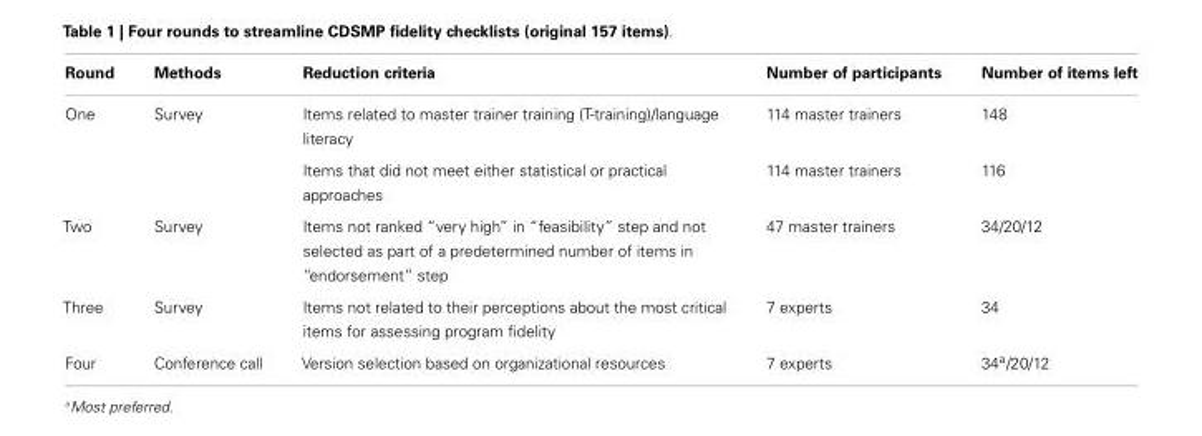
<table><thead><tr><td>Round</td><td>Methods</td><td>Reduction criteria</td><td>Number of participants</td><td>Number of items left</td></tr></thead><tbody><tr><td rowspan="2">One</td><td>Survey</td><td>Items related to master trainer training (T-training)/language literacy</td><td>114 master trainers</td><td>148</td></tr><tr><td></td><td>Items that did not meet either statistical or practical approaches</td><td>114 master trainers</td><td>116</td></tr><tr><td>Two</td><td>Survey</td><td>Items not ranked “very high” in “feasibility” step and not selected as part of a predetermined number of items in “endorsement” step</td><td>47 master trainers</td><td>34/20/12</td></tr><tr><td>Three</td><td>Survey</td><td>Items not related to their perceptions about the most critical items for assessing program fidelity</td><td>7 experts</td><td>34</td></tr><tr><td>Four</td><td>Conference call</td><td>Version selection based on organizational resources</td><td>7 experts</td><td>34<sup>a</sup>/20/12</td></tr></tbody></table>